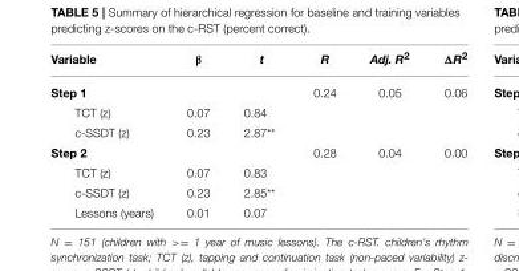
<table><thead><tr><td>Variable</td><td>β</td><td>t</td><td>R</td><td>Adj. R<sup>2</sup></td><td>ΔR<sup>2</sup></td></tr></thead><tbody><tr><td>Step 1</td><td></td><td></td><td>0.24</td><td>0.05</td><td>0.06</td></tr><tr><td>TCT (z)</td><td>0.07</td><td>0.84</td><td></td><td></td><td></td></tr><tr><td>c-SSDT (z)</td><td>0.23</td><td>2.87**</td><td></td><td></td><td></td></tr><tr><td>Step 2</td><td></td><td></td><td>0.28</td><td>0.04</td><td>0.00</td></tr><tr><td>TCT (z)</td><td>0.07</td><td>0.83</td><td></td><td></td><td></td></tr><tr><td>c-SSDT (z)</td><td>0.23</td><td>2.85**</td><td></td><td></td><td></td></tr><tr><td>Lessons (years)</td><td>0.01</td><td>0.07</td><td></td><td></td><td></td></tr></tbody></table>